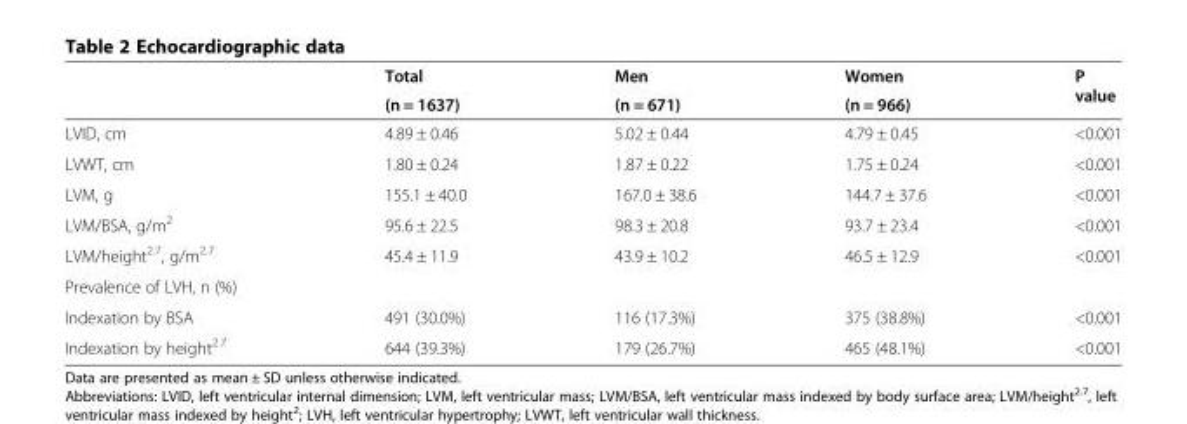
<table><thead><tr><td rowspan="2"></td><td rowspan="2">Total (n = 1637)</td><td rowspan="2">Men (n = 671)</td><td rowspan="2">Women (n = 966)</td><td rowspan="2">P value</td></tr><tr></tr></thead><tbody><tr><td>LVID, cm</td><td>4.89 ± 0.46</td><td>5.02 ± 0.44</td><td>4.79 ± 0.45</td><td>&lt;0.001</td></tr><tr><td>LVWT, cm</td><td>1.80 ± 0.24</td><td>1.87 ± 0.22</td><td>1.75 ± 0.24</td><td>&lt;0.001</td></tr><tr><td>LVM, g</td><td>155.1 ± 40.0</td><td>167.0 ± 38.6</td><td>144.7 ± 37.6</td><td>&lt;0.001</td></tr><tr><td>LVM/BSA, g/m<sup>2</sup></td><td>95.6 ± 22.5</td><td>98.3 ± 20.8</td><td>93.7 ± 23.4</td><td>&lt;0.001</td></tr><tr><td>LVM/height<sup>2.7</sup>, g/m<sup>2.7</sup></td><td>45.4 ± 11.9</td><td>43.9 ± 10.2</td><td>46.5 ± 12.9</td><td>&lt;0.001</td></tr><tr><td colspan="5">Prevalence of LVH, n (%)</td></tr><tr><td>Indexation by BSA</td><td>491 (30.0%)</td><td>116 (17.3%)</td><td>375 (38.8%)</td><td>&lt;0.001</td></tr><tr><td>Indexation by height<sup>2.7</sup></td><td>644 (39.3%)</td><td>179 (26.7%)</td><td>465 (48.1%)</td><td>&lt;0.001</td></tr></tbody></table>